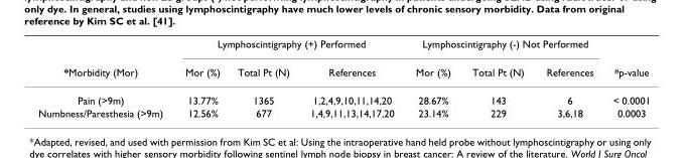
<table><thead><tr><td rowspan="2">*Morbidity (Mor)</td><td colspan="3">Lymphoscintigraphy (+) Performed</td><td colspan="3">Lymphoscintigraphy (-) Not Performed</td><td rowspan="2"><sup>#</sup>p-value</td></tr><tr><td>Mor (%)</td><td>Total Pt (N)</td><td>References</td><td>Mor (%)</td><td>Total Pt (N)</td><td>References</td></tr></thead><tbody><tr><td>Pain (&gt;9m)</td><td>13.77%</td><td>1365</td><td>1,2,4,9,10,11,14,20</td><td>28.67%</td><td>143</td><td>6</td><td>&lt; 0.0001</td></tr><tr><td>Numbness/Paresthesia (&gt;9m)</td><td>12.56%</td><td>677</td><td>1,4,9,11,13,14,17,20</td><td>23.14%</td><td>229</td><td>3,6,18</td><td>0.0003</td></tr></tbody></table>